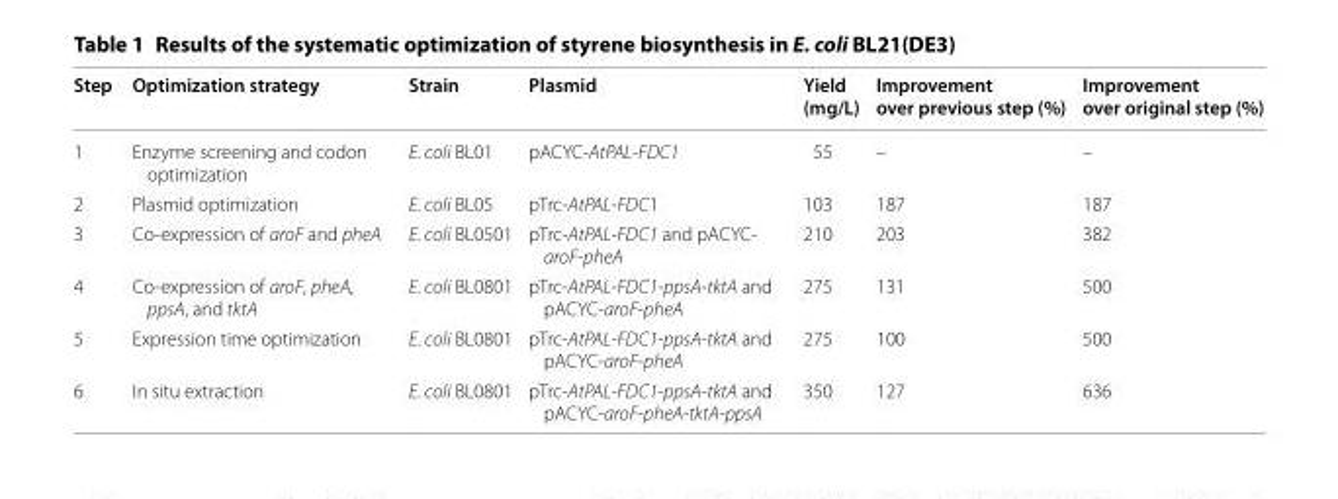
<table><thead><tr><td>Step</td><td>Optimization strategy</td><td>Strain</td><td>Plasmid</td><td>Yield (mg/L)</td><td>Improvement over previous step (%)</td><td>Improvement over original step (%)</td></tr></thead><tbody><tr><td>1</td><td>Enzyme screening and codon optimization</td><td>E. coli BL01</td><td>pACYC-AtPAL-FDC1</td><td>55</td><td>–</td><td>–</td></tr><tr><td>2</td><td>Plasmid optimization</td><td>E. coli BL05</td><td>pTrc-AtPAL-FDC1</td><td>103</td><td>187</td><td>187</td></tr><tr><td>3</td><td>Co-expression of aroF and pheA</td><td>E. coli BL0501</td><td>pTrc-AtPAL-FDC1 and pACYC- aroF-pheA</td><td>210</td><td>203</td><td>382</td></tr><tr><td>4</td><td>Co-expression of aroF, pheA, ppsA, and tktA</td><td>E. coli BL0801</td><td>pTrc-AtPAL-FDC1-ppsA-tktA and pACYC-aroF-pheA</td><td>275</td><td>131</td><td>500</td></tr><tr><td>5</td><td>Expression time optimization</td><td>E. coli BL0801</td><td>pTrc-AtPAL-FDC1-ppsA-tktA and pACYC-aroF-pheA</td><td>275</td><td>100</td><td>500</td></tr><tr><td>6</td><td>In situ extraction</td><td>E. coli BL0801</td><td>pTrc-AtPAL-FDC1-ppsA-tktA and pACYC-aroF-pheA-tktA-ppsA</td><td>350</td><td>127</td><td>636</td></tr></tbody></table>